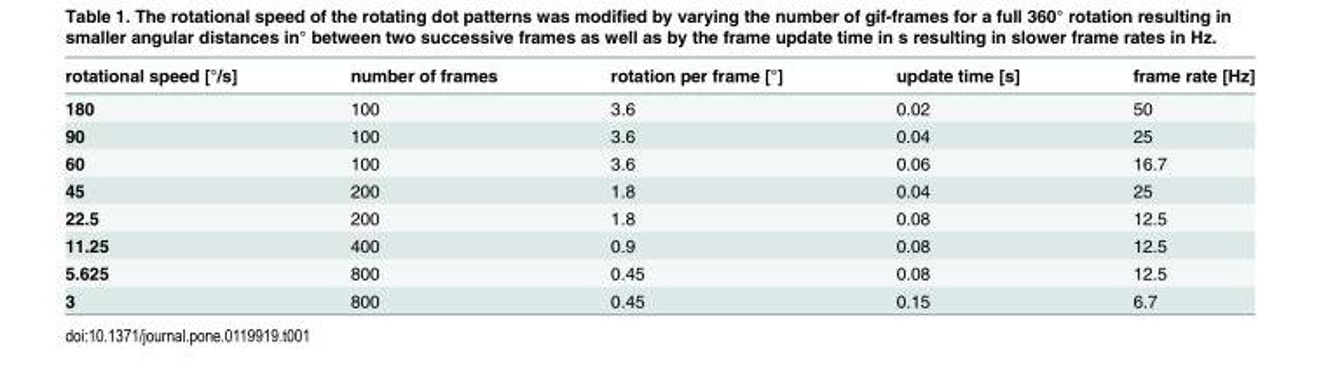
<table><thead><tr><td>rotational speed [°/s]</td><td>number of frames</td><td>rotation per frame [°]</td><td>update time [s]</td><td>frame rate [Hz]</td></tr></thead><tbody><tr><td>180</td><td>100</td><td>3.6</td><td>0.02</td><td>50</td></tr><tr><td>90</td><td>100</td><td>3.6</td><td>0.04</td><td>25</td></tr><tr><td>60</td><td>100</td><td>3.6</td><td>0.06</td><td>16.7</td></tr><tr><td>45</td><td>200</td><td>1.8</td><td>0.04</td><td>25</td></tr><tr><td>22.5</td><td>200</td><td>1.8</td><td>0.08</td><td>12.5</td></tr><tr><td>11.25</td><td>400</td><td>0.9</td><td>0.08</td><td>12.5</td></tr><tr><td>5.625</td><td>800</td><td>0.45</td><td>0.08</td><td>12.5</td></tr><tr><td>3</td><td>800</td><td>0.45</td><td>0.15</td><td>6.7</td></tr></tbody></table>